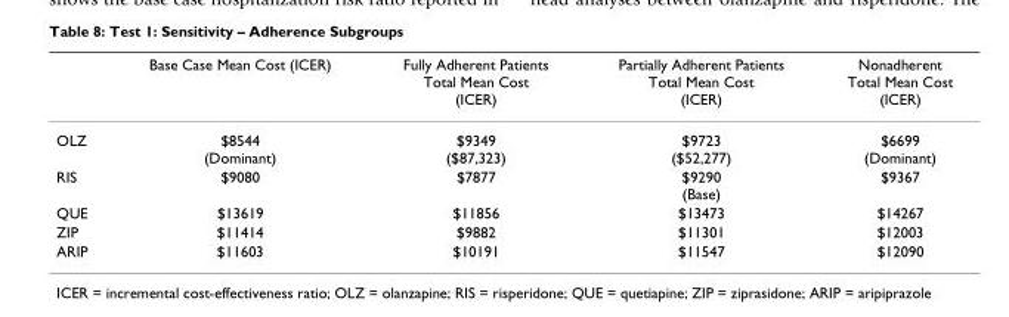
<table><thead><tr><td></td><td>Base Case Mean Cost (ICER)</td><td>Fully Adherent Patients Total Mean Cost (ICER)</td><td>Partially Adherent Patients Total Mean Cost (ICER)</td><td>Nonadherent Total Mean Cost (ICER)</td></tr></thead><tbody><tr><td>OLZ</td><td>$8544 (Dominant)</td><td>$9349 ($87,323)</td><td>$9723 ($52,277)</td><td>$6699 (Dominant)</td></tr><tr><td>RIS</td><td>$9080</td><td>$7877</td><td>$9290 (Base)</td><td>$9367</td></tr><tr><td>QUE</td><td>$13619</td><td>$11856</td><td>$13473</td><td>$14267</td></tr><tr><td>ZIP</td><td>$11414</td><td>$9882</td><td>$11301</td><td>$12003</td></tr><tr><td>ARIP</td><td>$11603</td><td>$10191</td><td>$11547</td><td>$12090</td></tr></tbody></table>